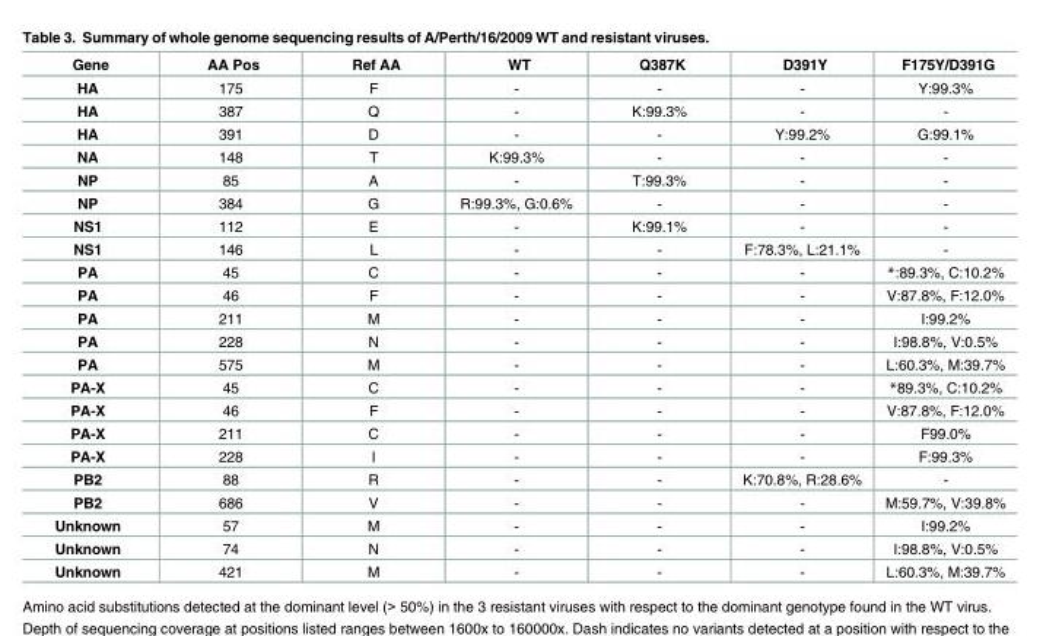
<table><thead><tr><td>Gene</td><td>AA Pos</td><td>Ref AA</td><td>WT</td><td>Q387K</td><td>D391Y</td><td>F175Y/D391G</td></tr></thead><tbody><tr><td>HA</td><td>175</td><td>F</td><td>-</td><td>-</td><td>-</td><td>Y:99.3%</td></tr><tr><td>HA</td><td>387</td><td>Q</td><td>-</td><td>K:99.3%</td><td>-</td><td>-</td></tr><tr><td>HA</td><td>391</td><td>D</td><td>-</td><td>-</td><td>Y:99.2%</td><td>G:99.1%</td></tr><tr><td>NA</td><td>148</td><td>T</td><td>K:99.3%</td><td>-</td><td>-</td><td>-</td></tr><tr><td>NP</td><td>85</td><td>A</td><td>-</td><td>T:99.3%</td><td>-</td><td>-</td></tr><tr><td>NP</td><td>384</td><td>G</td><td>R:99.3%, G:0.6%</td><td>-</td><td>-</td><td>-</td></tr><tr><td>NS1</td><td>112</td><td>E</td><td>-</td><td>K:99.1%</td><td>-</td><td>-</td></tr><tr><td>NS1</td><td>146</td><td>L</td><td>-</td><td>-</td><td>F:78.3%, L:21.1%</td><td>-</td></tr><tr><td>PA</td><td>45</td><td>C</td><td>-</td><td>-</td><td>-</td><td>*:89.3%, C:10.2%</td></tr><tr><td>PA</td><td>46</td><td>F</td><td>-</td><td>-</td><td>-</td><td>V:87.8%, F:12.0%</td></tr><tr><td>PA</td><td>211</td><td>M</td><td>-</td><td>-</td><td>-</td><td>I:99.2%</td></tr><tr><td>PA</td><td>228</td><td>N</td><td>-</td><td>-</td><td>-</td><td>I:98.8%, V:0.5%</td></tr><tr><td>PA</td><td>575</td><td>M</td><td>-</td><td>-</td><td>-</td><td>L:60.3%, M:39.7%</td></tr><tr><td>PA-X</td><td>45</td><td>C</td><td>-</td><td>-</td><td>-</td><td>*89.3%, C:10.2%</td></tr><tr><td>PA-X</td><td>46</td><td>F</td><td>-</td><td>-</td><td>-</td><td>V:87.8%, F:12.0%</td></tr><tr><td>PA-X</td><td>211</td><td>C</td><td>-</td><td>-</td><td>-</td><td>F99.0%</td></tr><tr><td>PA-X</td><td>228</td><td>I</td><td>-</td><td>-</td><td>-</td><td>F:99.3%</td></tr><tr><td>PB2</td><td>88</td><td>R</td><td>-</td><td>-</td><td>K:70.8%, R:28.6%</td><td>-</td></tr><tr><td>PB2</td><td>686</td><td>V</td><td>-</td><td>-</td><td>-</td><td>M:59.7%, V:39.8%</td></tr><tr><td>Unknown</td><td>57</td><td>M</td><td>-</td><td>-</td><td>-</td><td>I:99.2%</td></tr><tr><td>Unknown</td><td>74</td><td>N</td><td>-</td><td>-</td><td>-</td><td>I:98.8%, V:0.5%</td></tr><tr><td>Unknown</td><td>421</td><td>M</td><td>-</td><td>-</td><td>-</td><td>L:60.3%, M:39.7%</td></tr></tbody></table>